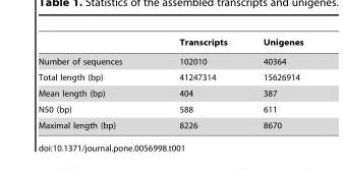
<table><thead><tr><td></td><td>Transcripts</td><td>Unigenes</td></tr></thead><tbody><tr><td>Number of sequences</td><td>102010</td><td>40364</td></tr><tr><td>Total length (bp)</td><td>41247314</td><td>15626914</td></tr><tr><td>Mean length (bp)</td><td>404</td><td>387</td></tr><tr><td>N50 (bp)</td><td>588</td><td>611</td></tr><tr><td>Maximal length (bp)</td><td>8226</td><td>8670</td></tr></tbody></table>